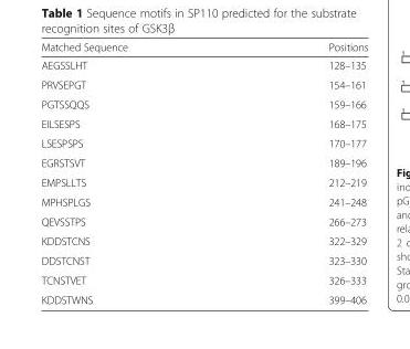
<table><thead><tr><td>Matched Sequence</td><td>Positions</td></tr></thead><tbody><tr><td>AEGSSLHT</td><td>128–135</td></tr><tr><td>PRVSEPGT</td><td>154–161</td></tr><tr><td>PGTSSQQS</td><td>159–166</td></tr><tr><td>EILSESPS</td><td>168–175</td></tr><tr><td>LSESPSPS</td><td>170–177</td></tr><tr><td>EGRSTSVT</td><td>189–196</td></tr><tr><td>EMPSLLTS</td><td>212–219</td></tr><tr><td>MPHSPLGS</td><td>241–248</td></tr><tr><td>QEVSSTPS</td><td>266–273</td></tr><tr><td>KDDSTCNS</td><td>322–329</td></tr><tr><td>DDSTCNST</td><td>323–330</td></tr><tr><td>TCNSTVET</td><td>326–333</td></tr><tr><td>KDDSTWNS</td><td>399–406</td></tr></tbody></table>